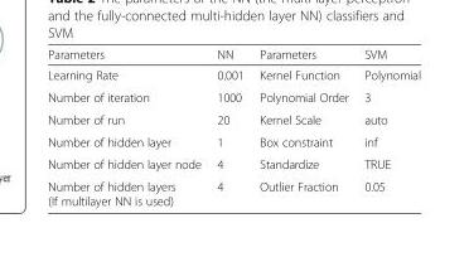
<table><thead><tr><td>Parameters</td><td>NN</td><td>Parameters</td><td>SVM</td></tr></thead><tbody><tr><td>Learning Rate</td><td>0.001</td><td>Kernel Function</td><td>Polynomial</td></tr><tr><td>Number of iteration</td><td>1000</td><td>Polynomial Order</td><td>3</td></tr><tr><td>Number of run</td><td>20</td><td>Kernel Scale</td><td>auto</td></tr><tr><td>Number of hidden layer</td><td>1</td><td>Box constraint</td><td>inf</td></tr><tr><td>Number of hidden layer node</td><td>4</td><td>Standardize</td><td>TRUE</td></tr><tr><td>Number of hidden layers (If multilayer NN is used)</td><td>4</td><td>Outlier Fraction</td><td>0.05</td></tr></tbody></table>